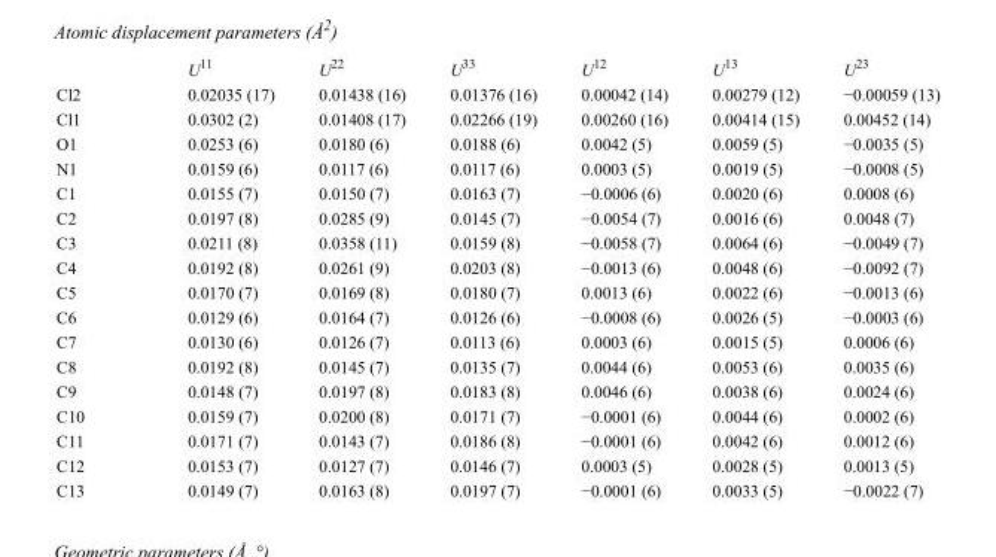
<table><thead><tr><td></td><td>U<sup>11</sup></td><td>U<sup>22</sup></td><td>U<sup>33</sup></td><td>U<sup>12</sup></td><td>U<sup>13</sup></td><td>U<sup>23</sup></td></tr></thead><tbody><tr><td>Cl2</td><td>0.02035 (17)</td><td>0.01438 (16)</td><td>0.01376 (16)</td><td>0.00042 (14)</td><td>0.00279 (12)</td><td>−0.00059 (13)</td></tr><tr><td>Cl1</td><td>0.0302 (2)</td><td>0.01408 (17)</td><td>0.02266 (19)</td><td>0.00260 (16)</td><td>0.00414 (15)</td><td>0.00452 (14)</td></tr><tr><td>O1</td><td>0.0253 (6)</td><td>0.0180 (6)</td><td>0.0188 (6)</td><td>0.0042 (5)</td><td>0.0059 (5)</td><td>−0.0035 (5)</td></tr><tr><td>N1</td><td>0.0159 (6)</td><td>0.0117 (6)</td><td>0.0117 (6)</td><td>0.0003 (5)</td><td>0.0019 (5)</td><td>−0.0008 (5)</td></tr><tr><td>C1</td><td>0.0155 (7)</td><td>0.0150 (7)</td><td>0.0163 (7)</td><td>−0.0006 (6)</td><td>0.0020 (6)</td><td>0.0008 (6)</td></tr><tr><td>C2</td><td>0.0197 (8)</td><td>0.0285 (9)</td><td>0.0145 (7)</td><td>−0.0054 (7)</td><td>0.0016 (6)</td><td>0.0048 (7)</td></tr><tr><td>C3</td><td>0.0211 (8)</td><td>0.0358 (11)</td><td>0.0159 (8)</td><td>−0.0058 (7)</td><td>0.0064 (6)</td><td>−0.0049 (7)</td></tr><tr><td>C4</td><td>0.0192 (8)</td><td>0.0261 (9)</td><td>0.0203 (8)</td><td>−0.0013 (6)</td><td>0.0048 (6)</td><td>−0.0092 (7)</td></tr><tr><td>C5</td><td>0.0170 (7)</td><td>0.0169 (8)</td><td>0.0180 (7)</td><td>0.0013 (6)</td><td>0.0022 (6)</td><td>−0.0013 (6)</td></tr><tr><td>C6</td><td>0.0129 (6)</td><td>0.0164 (7)</td><td>0.0126 (6)</td><td>−0.0008 (6)</td><td>0.0026 (5)</td><td>−0.0003 (6)</td></tr><tr><td>C7</td><td>0.0130 (6)</td><td>0.0126 (7)</td><td>0.0113 (6)</td><td>0.0003 (6)</td><td>0.0015 (5)</td><td>0.0006 (6)</td></tr><tr><td>C8</td><td>0.0192 (8)</td><td>0.0145 (7)</td><td>0.0135 (7)</td><td>0.0044 (6)</td><td>0.0053 (6)</td><td>0.0035 (6)</td></tr><tr><td>C9</td><td>0.0148 (7)</td><td>0.0197 (8)</td><td>0.0183 (8)</td><td>0.0046 (6)</td><td>0.0038 (6)</td><td>0.0024 (6)</td></tr><tr><td>C10</td><td>0.0159 (7)</td><td>0.0200 (8)</td><td>0.0171 (7)</td><td>−0.0001 (6)</td><td>0.0044 (6)</td><td>0.0002 (6)</td></tr><tr><td>C11</td><td>0.0171 (7)</td><td>0.0143 (7)</td><td>0.0186 (8)</td><td>−0.0001 (6)</td><td>0.0042 (6)</td><td>0.0012 (6)</td></tr><tr><td>C12</td><td>0.0153 (7)</td><td>0.0127 (7)</td><td>0.0146 (7)</td><td>0.0003 (5)</td><td>0.0028 (5)</td><td>0.0013 (5)</td></tr><tr><td>C13</td><td>0.0149 (7)</td><td>0.0163 (8)</td><td>0.0197 (7)</td><td>−0.0001 (6)</td><td>0.0033 (5)</td><td>−0.0022 (7)</td></tr></tbody></table>